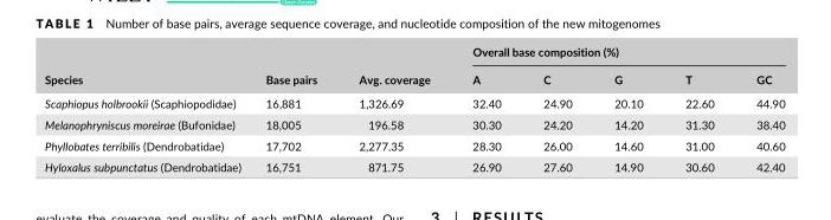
<table><thead><tr><td rowspan="2">Species</td><td rowspan="2">Base pairs</td><td rowspan="2">Avg. coverage</td><td colspan="5">Overall base composition (%)</td></tr><tr><td>A</td><td>C</td><td>G</td><td>T</td><td>GC</td></tr></thead><tbody><tr><td>Scaphiopus holbrookii (Scaphiopodidae)</td><td>16,881</td><td>1,326.69</td><td>32.40</td><td>24.90</td><td>20.10</td><td>22.60</td><td>44.90</td></tr><tr><td>Melanophryniscus moreirae (Bufonidae)</td><td>18,005</td><td>196.58</td><td>30.30</td><td>24.20</td><td>14.20</td><td>31.30</td><td>38.40</td></tr><tr><td>Phyllobates terribilis (Dendrobatidae)</td><td>17,702</td><td>2,277.35</td><td>28.30</td><td>26.00</td><td>14.60</td><td>31.00</td><td>40.60</td></tr><tr><td>Hyloxalus subpunctatus (Dendrobatidae)</td><td>16,751</td><td>871.75</td><td>26.90</td><td>27.60</td><td>14.90</td><td>30.60</td><td>42.40</td></tr></tbody></table>